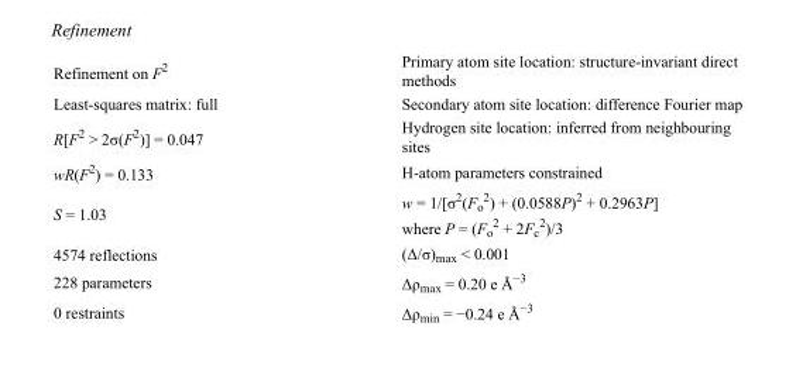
<table><tbody><tr><td>Refinement on F<sup>2</sup></td><td>Primary atom site location: structure-invariant direct methods</td></tr><tr><td>Least-squares matrix: full</td><td>Secondary atom site location: difference Fourier map</td></tr><tr><td>R[F<sup>2</sup> &gt; 2σ(F<sup>2</sup>)] = 0.047</td><td>Hydrogen site location: inferred from neighbouring sites</td></tr><tr><td>wR(F<sup>2</sup>) = 0.133</td><td>H-atom parameters constrained</td></tr><tr><td>S = 1.03</td><td>w = 1/[σ<sup>2</sup>(F<sub>o</sub> <sup>2</sup>) + (0.0588P)<sup>2</sup> + 0.2963P] where P = (F<sub>o</sub> <sup>2</sup> + 2F<sub>c</sub> <sup>2</sup>)/3</td></tr><tr><td>4574 reflections</td><td>(Δ/σ)<sub>max</sub> &lt; 0.001</td></tr><tr><td>228 parameters</td><td>Δρ<sub>max</sub> = 0.20 e Å<sup>−3</sup></td></tr><tr><td>0 restraints</td><td>Δρ<sub>min</sub> = −0.24 e Å<sup>−3</sup></td></tr></tbody></table>